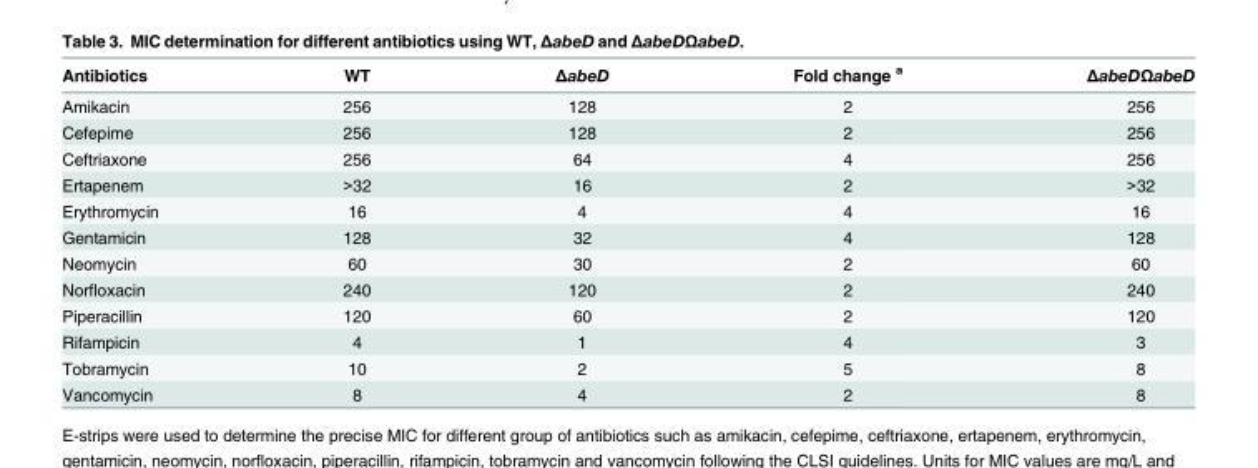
<table><thead><tr><td>Antibiotics</td><td>WT</td><td>ΔabeD</td><td>Fold change <sup>a</sup></td><td>ΔabeDΩabeD</td></tr></thead><tbody><tr><td>Amikacin</td><td>256</td><td>128</td><td>2</td><td>256</td></tr><tr><td>Cefepime</td><td>256</td><td>128</td><td>2</td><td>256</td></tr><tr><td>Ceftriaxone</td><td>256</td><td>64</td><td>4</td><td>256</td></tr><tr><td>Ertapenem</td><td>&gt;32</td><td>16</td><td>2</td><td>&gt;32</td></tr><tr><td>Erythromycin</td><td>16</td><td>4</td><td>4</td><td>16</td></tr><tr><td>Gentamicin</td><td>128</td><td>32</td><td>4</td><td>128</td></tr><tr><td>Neomycin</td><td>60</td><td>30</td><td>2</td><td>60</td></tr><tr><td>Norfloxacin</td><td>240</td><td>120</td><td>2</td><td>240</td></tr><tr><td>Piperacillin</td><td>120</td><td>60</td><td>2</td><td>120</td></tr><tr><td>Rifampicin</td><td>4</td><td>1</td><td>4</td><td>3</td></tr><tr><td>Tobramycin</td><td>10</td><td>2</td><td>5</td><td>8</td></tr><tr><td>Vancomycin</td><td>8</td><td>4</td><td>2</td><td>8</td></tr></tbody></table>